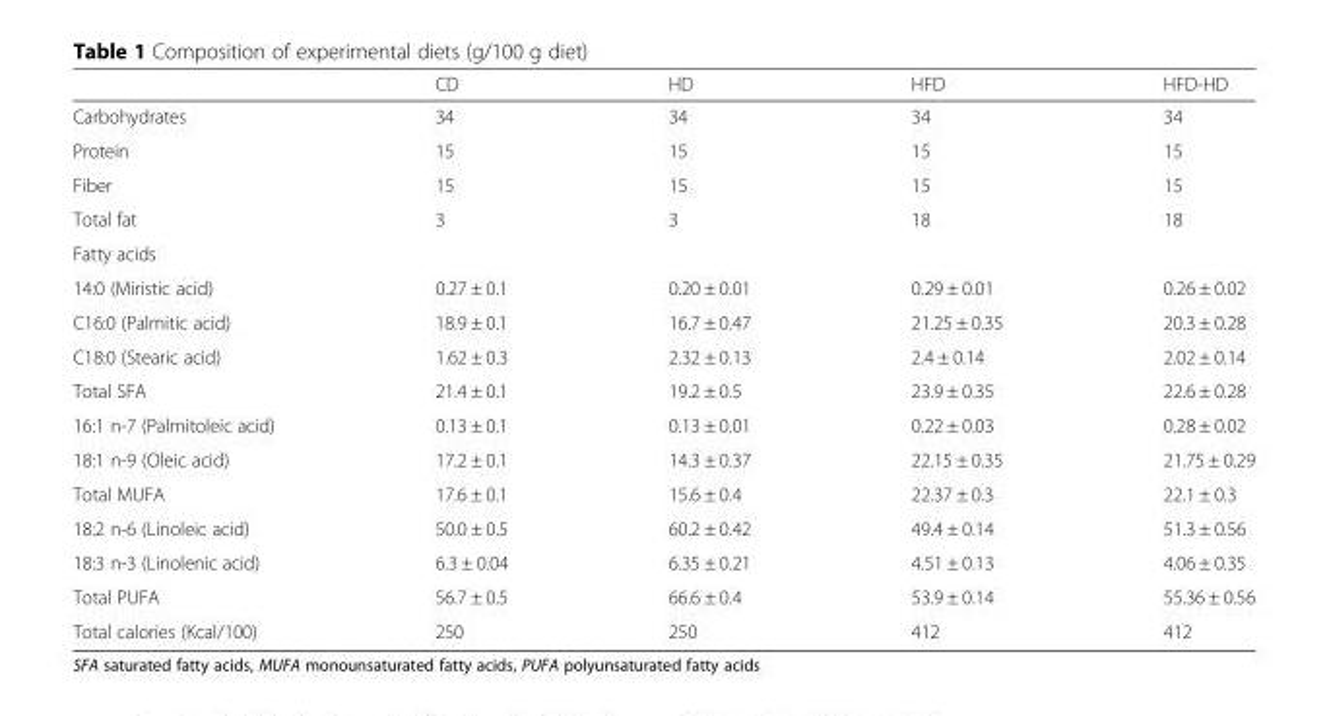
<table><thead><tr><td></td><td>CD</td><td>HD</td><td>HFD</td><td>HFD-HD</td></tr></thead><tbody><tr><td>Carbohydrates</td><td>34</td><td>34</td><td>34</td><td>34</td></tr><tr><td>Protein</td><td>15</td><td>15</td><td>15</td><td>15</td></tr><tr><td>Fiber</td><td>15</td><td>15</td><td>15</td><td>15</td></tr><tr><td>Total fat</td><td>3</td><td>3</td><td>18</td><td>18</td></tr><tr><td colspan="5">Fatty acids</td></tr><tr><td>14:0 (Miristic acid)</td><td>0.27 ± 0.1</td><td>0.20 ± 0.01</td><td>0.29 ± 0.01</td><td>0.26 ± 0.02</td></tr><tr><td>C16:0 (Palmitic acid)</td><td>18.9 ± 0.1</td><td>16.7 ± 0.47</td><td>21.25 ± 0.35</td><td>20.3 ± 0.28</td></tr><tr><td>C18:0 (Stearic acid)</td><td>1.62 ± 0.3</td><td>2.32 ± 0.13</td><td>2.4 ± 0.14</td><td>2.02 ± 0.14</td></tr><tr><td>Total SFA</td><td>21.4 ± 0.1</td><td>19.2 ± 0.5</td><td>23.9 ± 0.35</td><td>22.6 ± 0.28</td></tr><tr><td>16:1 n-7 (Palmitoleic acid)</td><td>0.13 ± 0.1</td><td>0.13 ± 0.01</td><td>0.22 ± 0.03</td><td>0.28 ± 0.02</td></tr><tr><td>18:1 n-9 (Oleic acid)</td><td>17.2 ± 0.1</td><td>14.3 ± 0.37</td><td>22.15 ± 0.35</td><td>21.75 ± 0.29</td></tr><tr><td>Total MUFA</td><td>17.6 ± 0.1</td><td>15.6 ± 0.4</td><td>22.37 ± 0.3</td><td>22.1 ± 0.3</td></tr><tr><td>18:2 n-6 (Linoleic acid)</td><td>50.0 ± 0.5</td><td>60.2 ± 0.42</td><td>49.4 ± 0.14</td><td>51.3 ± 0.56</td></tr><tr><td>18:3 n-3 (Linolenic acid)</td><td>6.3 ± 0.04</td><td>6.35 ± 0.21</td><td>4.51 ± 0.13</td><td>4.06 ± 0.35</td></tr><tr><td>Total PUFA</td><td>56.7 ± 0.5</td><td>66.6 ± 0.4</td><td>53.9 ± 0.14</td><td>55.36 ± 0.56</td></tr><tr><td>Total calories (Kcal/100)</td><td>250</td><td>250</td><td>412</td><td>412</td></tr></tbody></table>